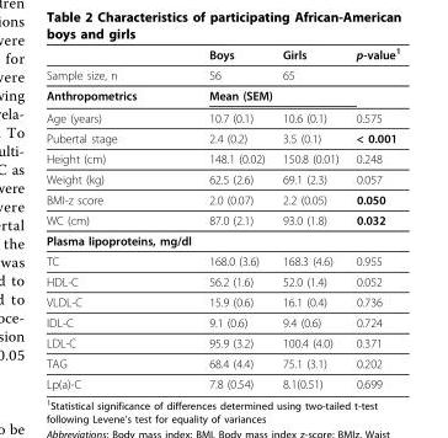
<table><thead><tr><td></td><td>Boys</td><td>Girls</td><td>p-value1</td></tr></thead><tbody><tr><td>Sample size, n</td><td>56</td><td>65</td><td></td></tr><tr><td>Anthropometrics</td><td colspan="2">Mean (SEM)</td><td></td></tr><tr><td>Age (years)</td><td>10.7 (0.1)</td><td>10.6 (0.1)</td><td>0.575</td></tr><tr><td>Pubertal stage</td><td>2.4 (0.2)</td><td>3.5 (0.1)</td><td>&lt; 0.001</td></tr><tr><td>Height (cm)</td><td>148.1 (0.02)</td><td>150.8 (0.01)</td><td>0.248</td></tr><tr><td>Weight (kg)</td><td>62.5 (2.6)</td><td>69.1 (2.3)</td><td>0.057</td></tr><tr><td>BMI-z score</td><td>2.0 (0.07)</td><td>2.2 (0.05)</td><td>0.050</td></tr><tr><td>WC (cm)</td><td>87.0 (2.1)</td><td>93.0 (1.8)</td><td>0.032</td></tr><tr><td colspan="4">Plasma lipoproteins, mg/dl</td></tr><tr><td>TC</td><td>168.0 (3.6)</td><td>168.3 (4.6)</td><td>0.955</td></tr><tr><td>HDL-C</td><td>56.2 (1.6)</td><td>52.0 (1.4)</td><td>0.052</td></tr><tr><td>VLDL-C</td><td>15.9 (0.6)</td><td>16.1 (0.4)</td><td>0.736</td></tr><tr><td>IDL-C</td><td>9.1 (0.6)</td><td>9.4 (0.6)</td><td>0.724</td></tr><tr><td>LDL-C</td><td>95.9 (3.2)</td><td>100.4 (4.0)</td><td>0.371</td></tr><tr><td>TAG</td><td>68.4 (4.4)</td><td>75.1 (3.1)</td><td>0.202</td></tr><tr><td>Lp(a)-C</td><td>7.8 (0.54)</td><td>8.1(0.51)</td><td>0.699</td></tr></tbody></table>